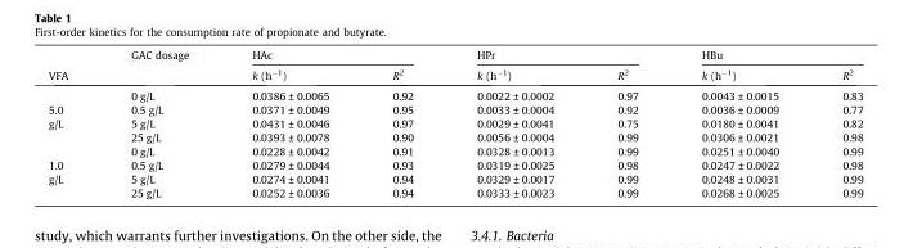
<table><thead><tr><td rowspan="2">VFA</td><td rowspan="2">GAC dosage</td><td colspan="2">HAc</td><td colspan="2">HPr</td><td colspan="2">HBu</td></tr><tr><td>k (h<sup>−1</sup>)</td><td>R<sup>2</sup></td><td>k (h<sup>−1</sup>)</td><td>R<sup>2</sup></td><td>k (h<sup>−1</sup>)</td><td>R<sup>2</sup></td></tr></thead><tbody><tr><td></td><td>0 g/L</td><td>0.0386 ± 0.0065</td><td>0.92</td><td>0.0022 ± 0.0002</td><td>0.97</td><td>0.0043 ± 0.0015</td><td>0.83</td></tr><tr><td>5.0</td><td>0.5 g/L</td><td>0.0371 ± 0.0049</td><td>0.95</td><td>0.0033 ± 0.0004</td><td>0.92</td><td>0.0036 ± 0.0009</td><td>0.77</td></tr><tr><td rowspan="3">g/L</td><td>5 g/L</td><td>0.0431 ± 0.0046</td><td>0.97</td><td>0.0029 ± 0.0041</td><td>0.75</td><td>0.0180 ± 0.0041</td><td>0.82</td></tr><tr><td>25 g/L</td><td>0.0393 ± 0.0078</td><td>0.90</td><td>0.0056 ± 0.0004</td><td>0.99</td><td>0.0306 ± 0.0021</td><td>0.98</td></tr><tr><td>0 g/L</td><td>0.0228 ± 0.0042</td><td>0.91</td><td>0.0328 ± 0.0013</td><td>0.99</td><td>0.0251 ± 0.0040</td><td>0.99</td></tr><tr><td>1.0</td><td>0.5 g/L</td><td>0.0279 ± 0.0044</td><td>0.93</td><td>0.0319 ± 0.0025</td><td>0.98</td><td>0.0247 ± 0.0022</td><td>0.98</td></tr><tr><td rowspan="2">g/L</td><td>5 g/L</td><td>0.0274 ± 0.0041</td><td>0.94</td><td>0.0329 ± 0.0017</td><td>0.99</td><td>0.0248 ± 0.0031</td><td>0.99</td></tr><tr><td>25 g/L</td><td>0.0252 ± 0.0036</td><td>0.94</td><td>0.0333 ± 0.0023</td><td>0.99</td><td>0.0268 ± 0.0025</td><td>0.99</td></tr></tbody></table>